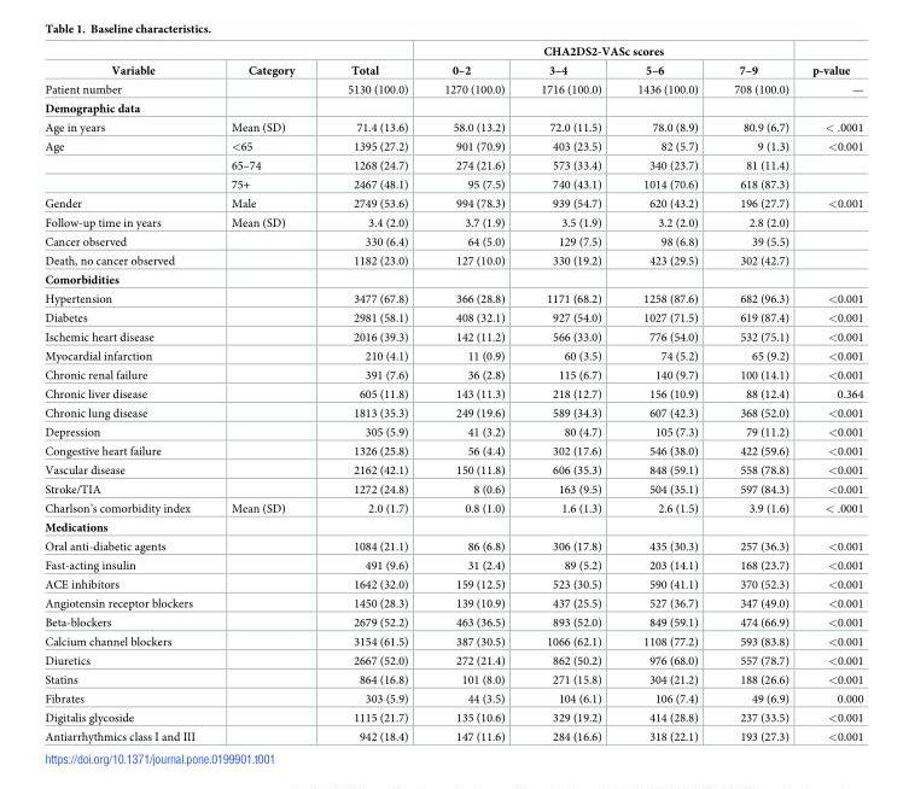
<table><thead><tr><td rowspan="2">Variable</td><td rowspan="2">Category</td><td rowspan="2">Total</td><td colspan="4">CHA2DS2-VASc scores</td><td rowspan="2">p-value</td></tr><tr><td>0–2</td><td>3–4</td><td>5–6</td><td>7–9</td></tr></thead><tbody><tr><td>Patient number</td><td></td><td>5130 (100.0)</td><td>1270 (100.0)</td><td>1716 (100.0)</td><td>1436 (100.0)</td><td>708 (100.0)</td><td>—</td></tr><tr><td colspan="8">Demographic data</td></tr><tr><td>Age in years</td><td>Mean (SD)</td><td>71.4 (13.6)</td><td>58.0 (13.2)</td><td>72.0 (11.5)</td><td>78.0 (8.9)</td><td>80.9 (6.7)</td><td>&lt; .0001</td></tr><tr><td rowspan="3">Age</td><td>&lt;65</td><td>1395 (27.2)</td><td>901 (70.9)</td><td>403 (23.5)</td><td>82 (5.7)</td><td>9 (1.3)</td><td>&lt;0.001</td></tr><tr><td>65–74</td><td>1268 (24.7)</td><td>274 (21.6)</td><td>573 (33.4)</td><td>340 (23.7)</td><td>81 (11.4)</td><td></td></tr><tr><td>75+</td><td>2467 (48.1)</td><td>95 (7.5)</td><td>740 (43.1)</td><td>1014 (70.6)</td><td>618 (87.3)</td><td></td></tr><tr><td>Gender</td><td>Male</td><td>2749 (53.6)</td><td>994 (78.3)</td><td>939 (54.7)</td><td>620 (43.2)</td><td>196 (27.7)</td><td>&lt;0.001</td></tr><tr><td>Follow-up time in years</td><td>Mean (SD)</td><td>3.4 (2.0)</td><td>3.7 (1.9)</td><td>3.5 (1.9)</td><td>3.2 (2.0)</td><td>2.8 (2.0)</td><td></td></tr><tr><td>Cancer observed</td><td></td><td>330 (6.4)</td><td>64 (5.0)</td><td>129 (7.5)</td><td>98 (6.8)</td><td>39 (5.5)</td><td></td></tr><tr><td>Death, no cancer observed</td><td></td><td>1182 (23.0)</td><td>127 (10.0)</td><td>330 (19.2)</td><td>423 (29.5)</td><td>302 (42.7)</td><td></td></tr><tr><td colspan="8">Comorbidities</td></tr><tr><td>Hypertension</td><td></td><td>3477 (67.8)</td><td>366 (28.8)</td><td>1171 (68.2)</td><td>1258 (87.6)</td><td>682 (96.3)</td><td>&lt;0.001</td></tr><tr><td>Diabetes</td><td></td><td>2981 (58.1)</td><td>408 (32.1)</td><td>927 (54.0)</td><td>1027 (71.5)</td><td>619 (87.4)</td><td>&lt;0.001</td></tr><tr><td>Ischemic heart disease</td><td></td><td>2016 (39.3)</td><td>142 (11.2)</td><td>566 (33.0)</td><td>776 (54.0)</td><td>532 (75.1)</td><td>&lt;0.001</td></tr><tr><td>Myocardial infarction</td><td></td><td>210 (4.1)</td><td>11 (0.9)</td><td>60 (3.5)</td><td>74 (5.2)</td><td>65 (9.2)</td><td>&lt;0.001</td></tr><tr><td>Chronic renal failure</td><td></td><td>391 (7.6)</td><td>36 (2.8)</td><td>115 (6.7)</td><td>140 (9.7)</td><td>100 (14.1)</td><td>&lt;0.001</td></tr><tr><td>Chronic liver disease</td><td></td><td>605 (11.8)</td><td>143 (11.3)</td><td>218 (12.7)</td><td>156 (10.9)</td><td>88 (12.4)</td><td>0.364</td></tr><tr><td>Chronic lung disease</td><td></td><td>1813 (35.3)</td><td>249 (19.6)</td><td>589 (34.3)</td><td>607 (42.3)</td><td>368 (52.0)</td><td>&lt;0.001</td></tr><tr><td>Depression</td><td></td><td>305 (5.9)</td><td>41 (3.2)</td><td>80 (4.7)</td><td>105 (7.3)</td><td>79 (11.2)</td><td>&lt;0.001</td></tr><tr><td>Congestive heart failure</td><td></td><td>1326 (25.8)</td><td>56 (4.4)</td><td>302 (17.6)</td><td>546 (38.0)</td><td>422 (59.6)</td><td>&lt;0.001</td></tr><tr><td>Vascular disease</td><td></td><td>2162 (42.1)</td><td>150 (11.8)</td><td>606 (35.3)</td><td>848 (59.1)</td><td>558 (78.8)</td><td>&lt;0.001</td></tr><tr><td>Stroke/TIA</td><td></td><td>1272 (24.8)</td><td>8 (0.6)</td><td>163 (9.5)</td><td>504 (35.1)</td><td>597 (84.3)</td><td>&lt;0.001</td></tr><tr><td>Charlson’s comorbidity index</td><td>Mean (SD)</td><td>2.0 (1.7)</td><td>0.8 (1.0)</td><td>1.6 (1.3)</td><td>2.6 (1.5)</td><td>3.9 (1.6)</td><td>&lt; .0001</td></tr><tr><td colspan="8">Medications</td></tr><tr><td>Oral anti-diabetic agents</td><td></td><td>1084 (21.1)</td><td>86 (6.8)</td><td>306 (17.8)</td><td>435 (30.3)</td><td>257 (36.3)</td><td>&lt;0.001</td></tr><tr><td>Fast-acting insulin</td><td></td><td>491 (9.6)</td><td>31 (2.4)</td><td>89 (5.2)</td><td>203 (14.1)</td><td>168 (23.7)</td><td>&lt;0.001</td></tr><tr><td>ACE inhibitors</td><td></td><td>1642 (32.0)</td><td>159 (12.5)</td><td>523 (30.5)</td><td>590 (41.1)</td><td>370 (52.3)</td><td>&lt;0.001</td></tr><tr><td>Angiotensin receptor blockers</td><td></td><td>1450 (28.3)</td><td>139 (10.9)</td><td>437 (25.5)</td><td>527 (36.7)</td><td>347 (49.0)</td><td>&lt;0.001</td></tr><tr><td>Beta-blockers</td><td></td><td>2679 (52.2)</td><td>463 (36.5)</td><td>893 (52.0)</td><td>849 (59.1)</td><td>474 (66.9)</td><td>&lt;0.001</td></tr><tr><td>Calcium channel blockers</td><td></td><td>3154 (61.5)</td><td>387 (30.5)</td><td>1066 (62.1)</td><td>1108 (77.2)</td><td>593 (83.8)</td><td>&lt;0.001</td></tr><tr><td>Diuretics</td><td></td><td>2667 (52.0)</td><td>272 (21.4)</td><td>862 (50.2)</td><td>976 (68.0)</td><td>557 (78.7)</td><td>&lt;0.001</td></tr><tr><td>Statins</td><td></td><td>864 (16.8)</td><td>101 (8.0)</td><td>271 (15.8)</td><td>304 (21.2)</td><td>188 (26.6)</td><td>&lt;0.001</td></tr><tr><td>Fibrates</td><td></td><td>303 (5.9)</td><td>44 (3.5)</td><td>104 (6.1)</td><td>106 (7.4)</td><td>49 (6.9)</td><td>0.000</td></tr><tr><td>Digitalis glycoside</td><td></td><td>1115 (21.7)</td><td>135 (10.6)</td><td>329 (19.2)</td><td>414 (28.8)</td><td>237 (33.5)</td><td>&lt;0.001</td></tr><tr><td>Antiarrhythmics class I and III</td><td></td><td>942 (18.4)</td><td>147 (11.6)</td><td>284 (16.6)</td><td>318 (22.1)</td><td>193 (27.3)</td><td>&lt;0.001</td></tr></tbody></table>